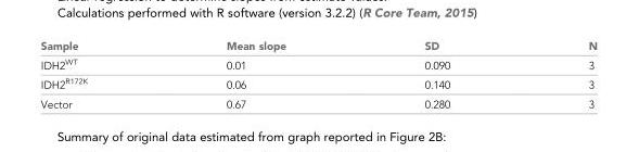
<table><thead><tr><td>Sample</td><td>Mean slope</td><td>SD</td><td>N</td></tr></thead><tbody><tr><td>IDH2<sup>WT</sup></td><td>0.01</td><td>0.090</td><td>3</td></tr><tr><td>IDH2<sup>R172K</sup></td><td>0.06</td><td>0.140</td><td>3</td></tr><tr><td>Vector</td><td>0.67</td><td>0.280</td><td>3</td></tr></tbody></table>